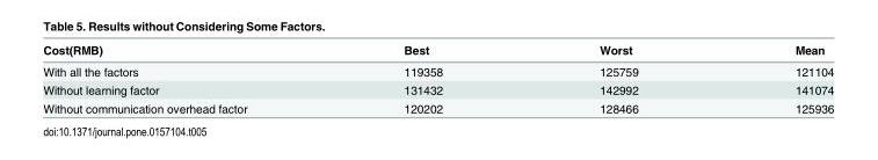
<table><thead><tr><td>Cost(RMB)</td><td>Best</td><td>Worst</td><td>Mean</td></tr></thead><tbody><tr><td>With all the factors</td><td>119358</td><td>125759</td><td>121104</td></tr><tr><td>Without learning factor</td><td>131432</td><td>142992</td><td>141074</td></tr><tr><td>Without communication overhead factor</td><td>120202</td><td>128466</td><td>125936</td></tr></tbody></table>